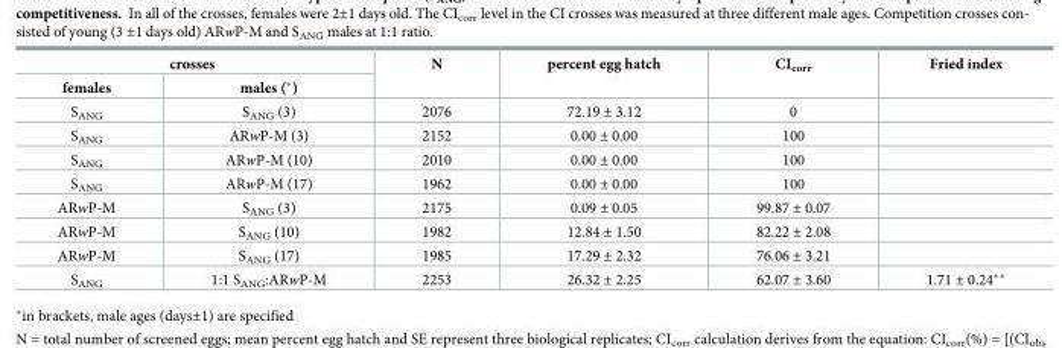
<table><thead><tr><td colspan="2">crosses</td><td rowspan="2">N</td><td rowspan="2">percent egg hatch</td><td rowspan="2">CI<sub>corr</sub></td><td rowspan="2">Fried index</td></tr><tr><td>females</td><td>males (*)</td></tr></thead><tbody><tr><td>S<sub>ANG</sub></td><td>S<sub>ANG</sub> (3)</td><td>2076</td><td>72.19 ± 3.12</td><td>0</td><td></td></tr><tr><td>S<sub>ANG</sub></td><td>ARwP-M (3)</td><td>2152</td><td>0.00 ± 0.00</td><td>100</td><td></td></tr><tr><td>S<sub>ANG</sub></td><td>ARwP-M (10)</td><td>2010</td><td>0.00 ± 0.00</td><td>100</td><td></td></tr><tr><td>S<sub>ANG</sub></td><td>ARwP-M (17)</td><td>1962</td><td>0.00 ± 0.00</td><td>100</td><td></td></tr><tr><td>ARwP-M</td><td>S<sub>ANG</sub> (3)</td><td>2175</td><td>0.09 ± 0.05</td><td>99.87 ± 0.07</td><td></td></tr><tr><td>ARwP-M</td><td>S<sub>ANG</sub> (10)</td><td>1982</td><td>12.84 ± 1.50</td><td>82.22 ± 2.08</td><td></td></tr><tr><td>ARwP-M</td><td>S<sub>ANG</sub> (17)</td><td>1985</td><td>17.29 ± 2.32</td><td>76.06 ± 3.21</td><td></td></tr><tr><td>S<sub>ANG</sub></td><td>1:1 S<sub>ANG</sub>:ARwP-M</td><td>2253</td><td>26.32 ± 2.25</td><td>62.07 ± 3.60</td><td>1.71 ± 0.24**</td></tr></tbody></table>